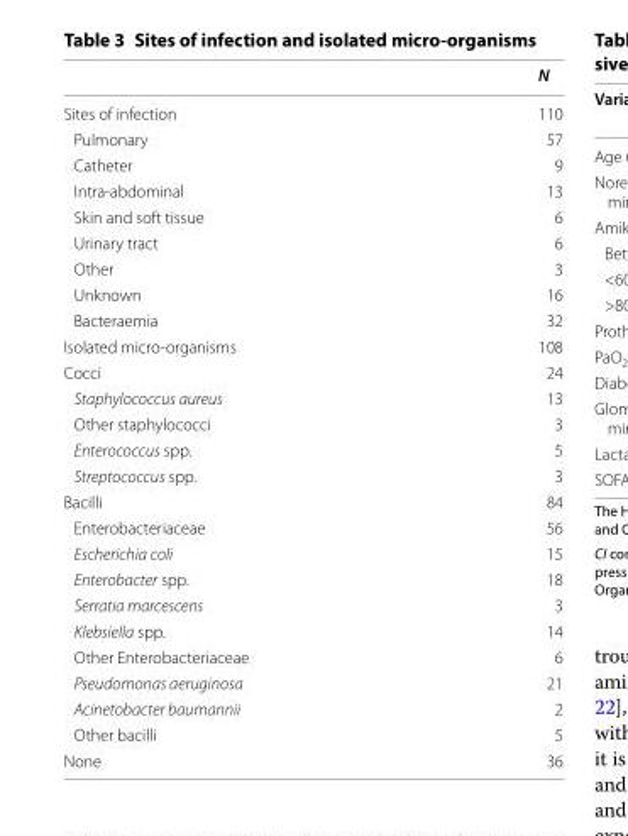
<table><thead><tr><td></td><td>N</td></tr></thead><tbody><tr><td>Sites of infection</td><td>110</td></tr><tr><td>Pulmonary</td><td>57</td></tr><tr><td>Catheter</td><td>9</td></tr><tr><td>Intra-abdominal</td><td>13</td></tr><tr><td>Skin and soft tissue</td><td>6</td></tr><tr><td>Urinary tract</td><td>6</td></tr><tr><td>Other</td><td>3</td></tr><tr><td>Unknown</td><td>16</td></tr><tr><td>Bacteraemia</td><td>32</td></tr><tr><td>Isolated micro-organisms</td><td>108</td></tr><tr><td>Cocci</td><td>24</td></tr><tr><td>Staphylococcus aureus</td><td>13</td></tr><tr><td>Other staphylococci</td><td>3</td></tr><tr><td>Enterococcus spp.</td><td>5</td></tr><tr><td>Streptococcus spp.</td><td>3</td></tr><tr><td>Bacilli</td><td>84</td></tr><tr><td>Enterobacteriaceae</td><td>56</td></tr><tr><td>Escherichia coli</td><td>15</td></tr><tr><td>Enterobacter spp.</td><td>18</td></tr><tr><td>Serratia marcescens</td><td>3</td></tr><tr><td>Klebsiella spp.</td><td>14</td></tr><tr><td>Other Enterobacteriaceae</td><td>6</td></tr><tr><td>Pseudomonas aeruginosa</td><td>21</td></tr><tr><td>Acinetobacter baumannii</td><td>2</td></tr><tr><td>Other bacilli</td><td>5</td></tr><tr><td>None</td><td>36</td></tr></tbody></table>